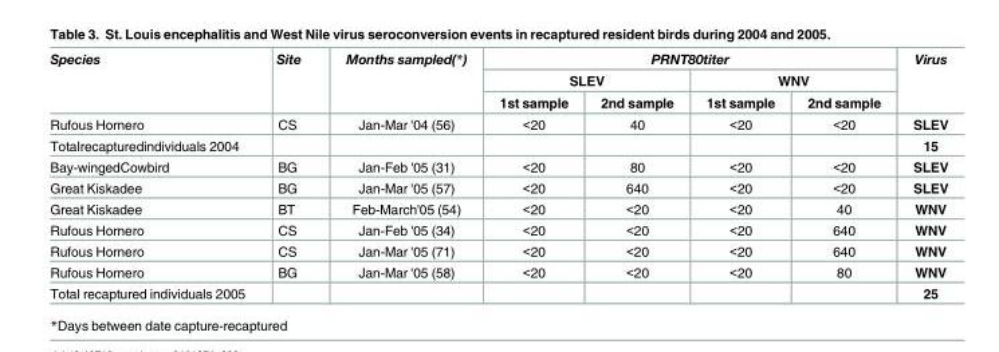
<table><thead><tr><td rowspan="3">Species</td><td rowspan="3">Site</td><td rowspan="3">Months sampled(*)</td><td colspan="4">PRNT80titer</td><td rowspan="3">Virus</td></tr><tr><td colspan="2">SLEV</td><td colspan="2">WNV</td></tr><tr><td>1st sample</td><td>2nd sample</td><td>1st sample</td><td>2nd sample</td></tr></thead><tbody><tr><td>Rufous Hornero</td><td>CS</td><td>Jan-Mar &#x27;04 (56)</td><td>&lt;20</td><td>40</td><td>&lt;20</td><td>&lt;20</td><td>SLEV</td></tr><tr><td>Totalrecapturedindividuals 2004</td><td></td><td></td><td></td><td></td><td></td><td></td><td>15</td></tr><tr><td>Bay-wingedCowbird</td><td>BG</td><td>Jan-Feb &#x27;05 (31)</td><td>&lt;20</td><td>80</td><td>&lt;20</td><td>&lt;20</td><td>SLEV</td></tr><tr><td>Great Kiskadee</td><td>BG</td><td>Jan-Mar &#x27;05 (57)</td><td>&lt;20</td><td>640</td><td>&lt;20</td><td>&lt;20</td><td>SLEV</td></tr><tr><td>Great Kiskadee</td><td>BT</td><td>Feb-March&#x27;05 (54)</td><td>&lt;20</td><td>&lt;20</td><td>&lt;20</td><td>40</td><td>WNV</td></tr><tr><td>Rufous Hornero</td><td>CS</td><td>Jan-Feb &#x27;05 (34)</td><td>&lt;20</td><td>&lt;20</td><td>&lt;20</td><td>640</td><td>WNV</td></tr><tr><td>Rufous Hornero</td><td>CS</td><td>Jan-Mar &#x27;05 (71)</td><td>&lt;20</td><td>&lt;20</td><td>&lt;20</td><td>640</td><td>WNV</td></tr><tr><td>Rufous Hornero</td><td>BG</td><td>Jan-Mar &#x27;05 (58)</td><td>&lt;20</td><td>&lt;20</td><td>&lt;20</td><td>80</td><td>WNV</td></tr><tr><td>Total recaptured individuals 2005</td><td></td><td></td><td></td><td></td><td></td><td></td><td>25</td></tr></tbody></table>